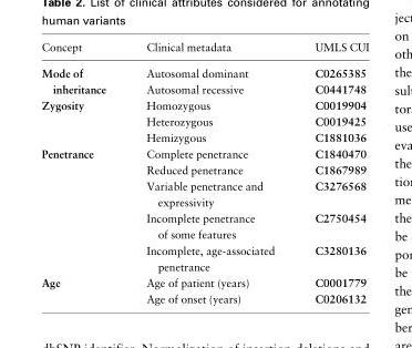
<table><thead><tr><td>Concept</td><td>Clinical metadata</td><td>UMLS CUI</td></tr></thead><tbody><tr><td rowspan="2">Mode of inheritance</td><td>Autosomal dominant</td><td>C0265385</td></tr><tr><td>Autosomal recessive</td><td>C0441748</td></tr><tr><td rowspan="3">Zygosity</td><td>Homozygous</td><td>C0019904</td></tr><tr><td>Heterozygous</td><td>C0019425</td></tr><tr><td>Hemizygous</td><td>C1881036</td></tr><tr><td rowspan="5">Penetrance</td><td>Complete penetrance</td><td>C1840470</td></tr><tr><td>Reduced penetrance</td><td>C1867989</td></tr><tr><td>Variable penetrance and expressivity</td><td>C3276568</td></tr><tr><td>Incomplete penetrance of some features</td><td>C2750454</td></tr><tr><td>Incomplete, age-associated penetrance</td><td>C3280136</td></tr><tr><td rowspan="2">Age</td><td>Age of patient (years)</td><td>C0001779</td></tr><tr><td>Age of onset (years)</td><td>C0206132</td></tr></tbody></table>